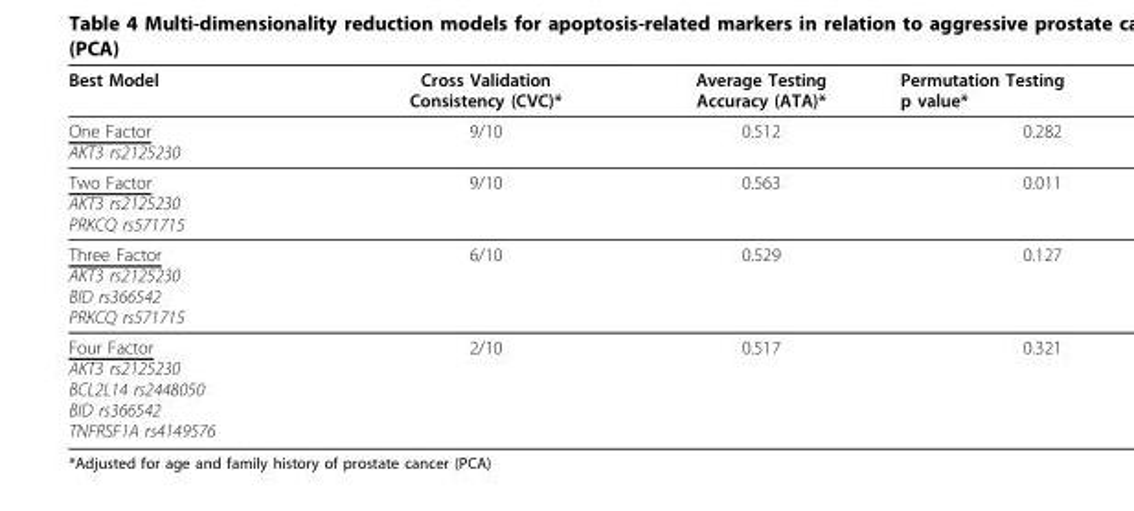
<table><thead><tr><td>Best Model</td><td>Cross Validation Consistency (CVC)*</td><td>Average Testing Accuracy (ATA)*</td><td>Permutation Testing p value*</td></tr></thead><tbody><tr><td>One Factor AKT3 rs2125230</td><td>9/10</td><td>0.512</td><td>0.282</td></tr><tr><td>Two Factor AKT3 rs2125230 PRKCQ rs571715</td><td>9/10</td><td>0.563</td><td>0.011</td></tr><tr><td>Three Factor AKT3 rs2125230 BID rs366542 PRKCQ rs571715</td><td>6/10</td><td>0.529</td><td>0.127</td></tr><tr><td>Four Factor AKT3 rs2125230 BCL2L14 rs2448050 BID rs366542 TNFRSF1A rs4149576</td><td>2/10</td><td>0.517</td><td>0.321</td></tr></tbody></table>